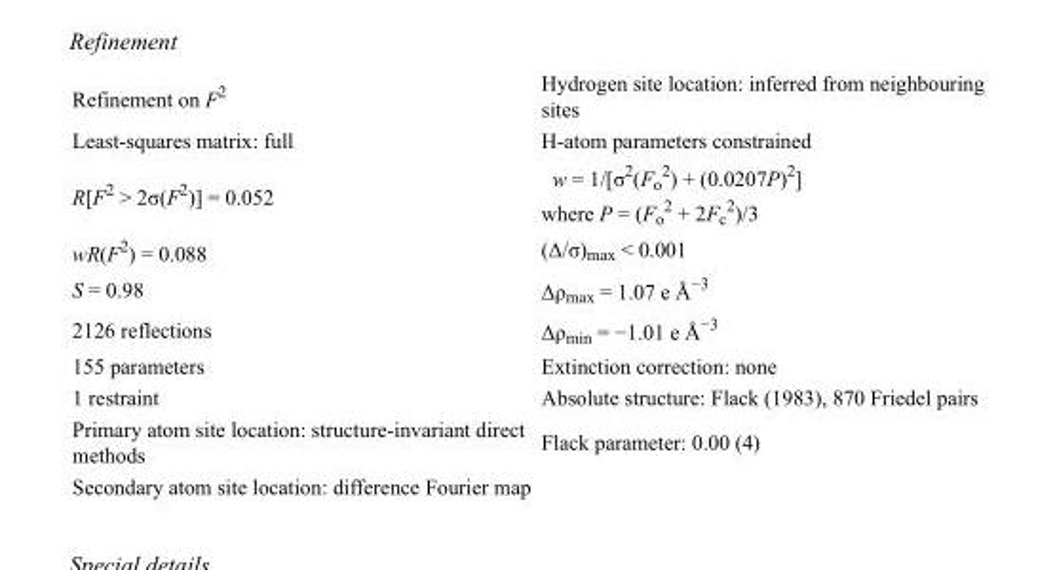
<table><tbody><tr><td>Refinement on F<sup>2</sup></td><td>Hydrogen site location: inferred from neighbouring sites</td></tr><tr><td>Least-squares matrix: full</td><td>H-atom parameters constrained</td></tr><tr><td>R[F<sup>2</sup> &gt; 2σ(F<sup>2</sup>)] = 0.052</td><td>w = 1/[σ<sup>2</sup>(F<sub>o</sub> <sup>2</sup>) + (0.0207P)<sup>2</sup>] where P = (F<sub>o</sub> <sup>2</sup> + 2F<sub>c</sub> <sup>2</sup>)/3</td></tr><tr><td>wR(F<sup>2</sup>) = 0.088</td><td>(Δ/σ)<sub>max</sub> &lt; 0.001</td></tr><tr><td>S = 0.98</td><td>Δρ<sub>max</sub> = 1.07 e Å<sup>−3</sup></td></tr><tr><td>2126 reflections</td><td>Δρ<sub>min</sub> = −1.01 e Å<sup>−3</sup></td></tr><tr><td>155 parameters</td><td>Extinction correction: none</td></tr><tr><td>1 restraint</td><td>Absolute structure: Flack (1983), 870 Friedel pairs</td></tr><tr><td>Primary atom site location: structure-invariant direct methods</td><td>Flack parameter: 0.00 (4)</td></tr><tr><td>Secondary atom site location: difference Fourier map</td><td></td></tr></tbody></table>